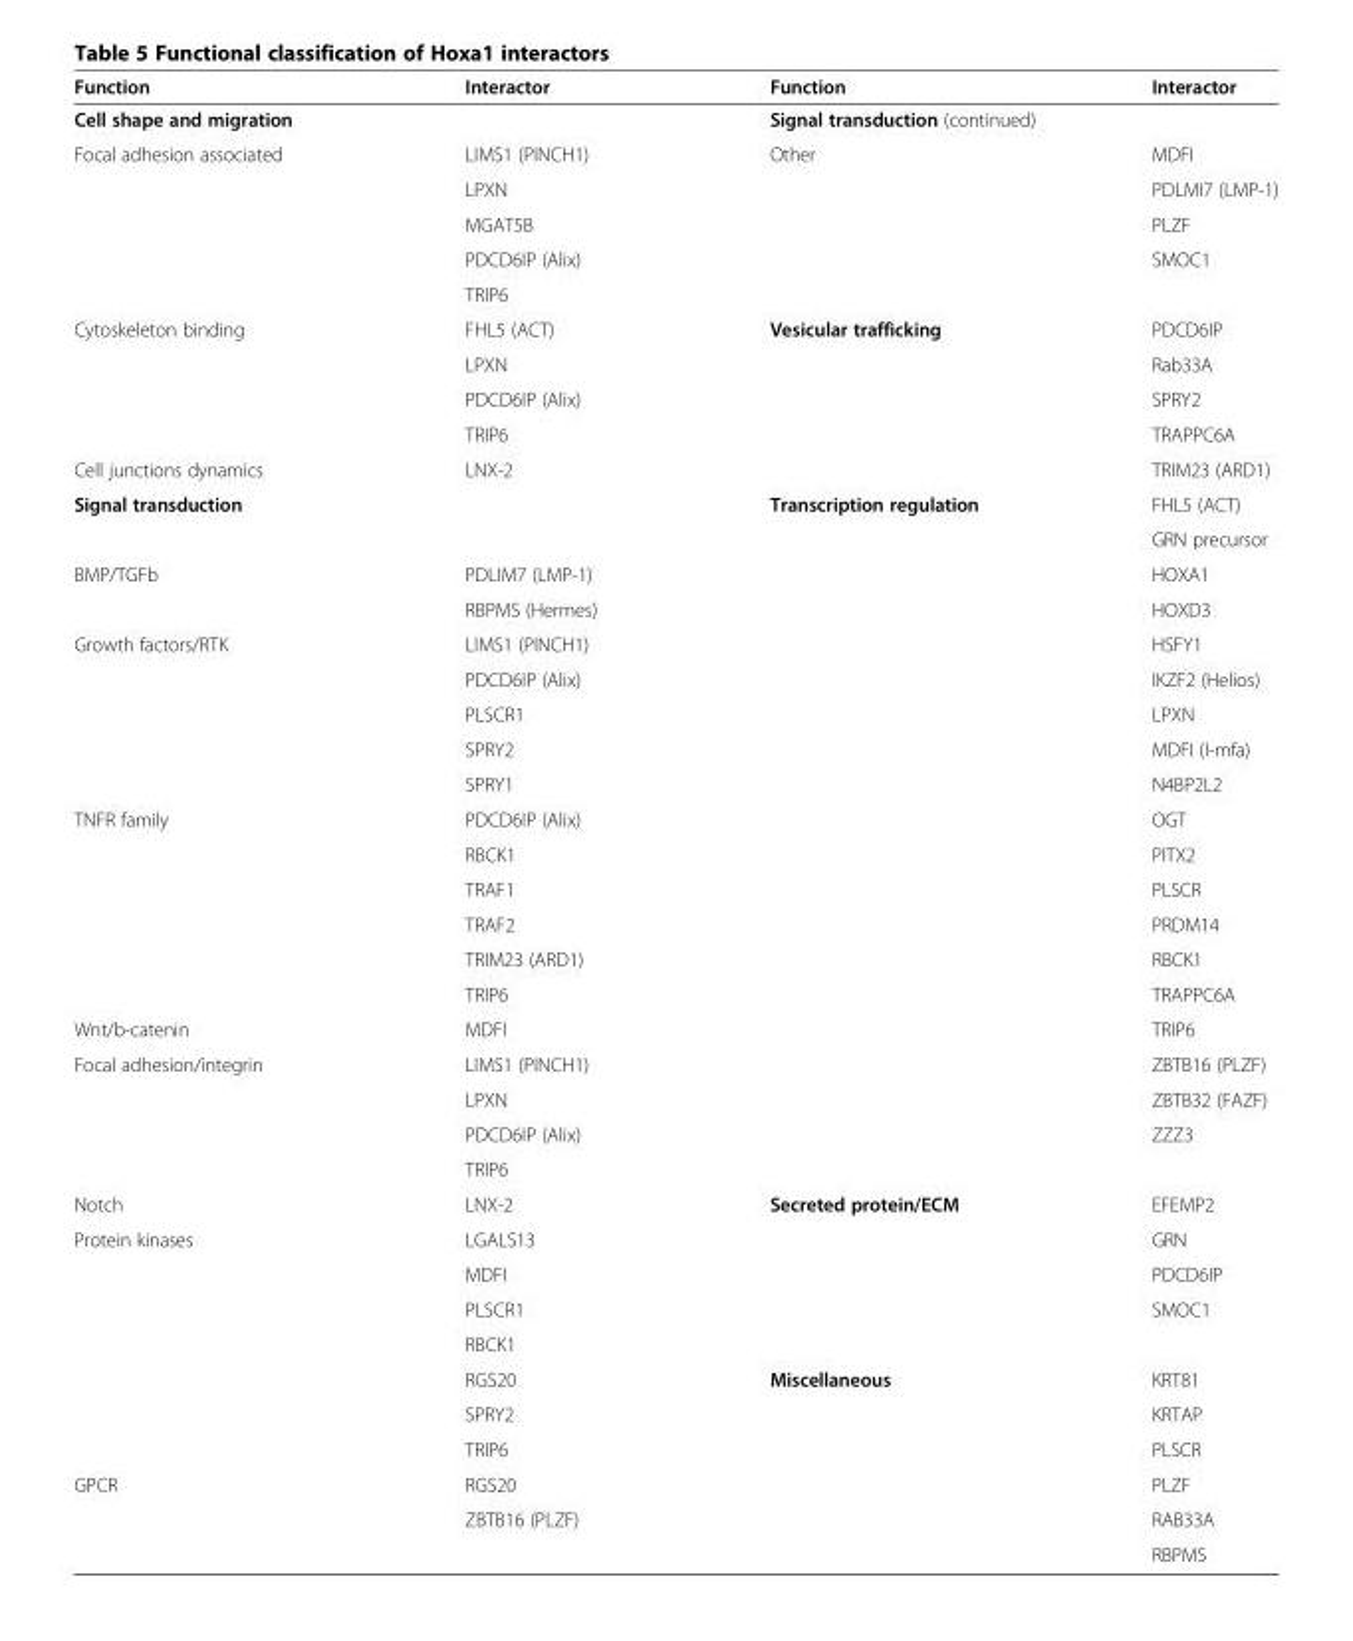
<table><thead><tr><td>Function</td><td>Interactor</td><td>Function</td><td>Interactor</td></tr></thead><tbody><tr><td>Cell shape and migration</td><td></td><td colspan="2">Signal transduction (continued)</td></tr><tr><td rowspan="5">Focal adhesion associated</td><td>LIMS1 (PINCH1)</td><td>Other</td><td>MDFI</td></tr><tr><td>LPXN</td><td></td><td>PDLMI7 (LMP-1)</td></tr><tr><td>MGAT5B</td><td></td><td>PLZF</td></tr><tr><td>PDCD6IP (Alix)</td><td></td><td>SMOC1</td></tr><tr><td>TRIP6</td><td></td><td></td></tr><tr><td rowspan="4">Cytoskeleton binding</td><td>FHL5 (ACT)</td><td>Vesicular trafficking</td><td>PDCD6IP</td></tr><tr><td>LPXN</td><td></td><td>Rab33A</td></tr><tr><td>PDCD6IP (Alix)</td><td></td><td>SPRY2</td></tr><tr><td>TRIP6</td><td></td><td>TRAPPC6A</td></tr><tr><td>Cell junctions dynamics</td><td>LNX-2</td><td></td><td>TRIM23 (ARD1)</td></tr><tr><td rowspan="2">Signal transduction</td><td></td><td>Transcription regulation</td><td>FHL5 (ACT)</td></tr><tr><td></td><td></td><td>GRN precursor</td></tr><tr><td rowspan="2">BMP/TGFb</td><td>PDLIM7 (LMP-1)</td><td></td><td>HOXA1</td></tr><tr><td>RBPMS (Hermes)</td><td></td><td>HOXD3</td></tr><tr><td rowspan="5">Growth factors/RTK</td><td>LIMS1 (PINCH1)</td><td></td><td>HSFY1</td></tr><tr><td>PDCD6IP (Alix)</td><td></td><td>IKZF2 (Helios)</td></tr><tr><td>PLSCR1</td><td></td><td>LPXN</td></tr><tr><td>SPRY2</td><td></td><td>MDFI (I-mfa)</td></tr><tr><td>SPRY1</td><td></td><td>N4BP2L2</td></tr><tr><td rowspan="6">TNFR family</td><td>PDCD6IP (Alix)</td><td></td><td>OGT</td></tr><tr><td>RBCK1</td><td></td><td>PITX2</td></tr><tr><td>TRAF1</td><td></td><td>PLSCR</td></tr><tr><td>TRAF2</td><td></td><td>PRDM14</td></tr><tr><td>TRIM23 (ARD1)</td><td></td><td>RBCK1</td></tr><tr><td>TRIP6</td><td></td><td>TRAPPC6A</td></tr><tr><td>Wnt/b-catenin</td><td>MDFI</td><td></td><td>TRIP6</td></tr><tr><td rowspan="4">Focal adhesion/integrin</td><td>LIMS1 (PINCH1)</td><td></td><td>ZBTB16 (PLZF)</td></tr><tr><td>LPXN</td><td></td><td>ZBTB32 (FAZF)</td></tr><tr><td>PDCD6IP (Alix)</td><td></td><td>ZZZ3</td></tr><tr><td>TRIP6</td><td></td><td></td></tr><tr><td>Notch</td><td>LNX-2</td><td>Secreted protein/ECM</td><td>EFEMP2</td></tr><tr><td rowspan="7">Protein kinases</td><td>LGALS13</td><td></td><td>GRN</td></tr><tr><td>MDFI</td><td></td><td>PDCD6IP</td></tr><tr><td>PLSCR1</td><td></td><td>SMOC1</td></tr><tr><td>RBCK1</td><td></td><td></td></tr><tr><td>RGS20</td><td>Miscellaneous</td><td>KRT81</td></tr><tr><td>SPRY2</td><td></td><td>KRTAP</td></tr><tr><td>TRIP6</td><td></td><td>PLSCR</td></tr><tr><td rowspan="3">GPCR</td><td>RGS20</td><td></td><td>PLZF</td></tr><tr><td>ZBTB16 (PLZF)</td><td></td><td>RAB33A</td></tr><tr><td></td><td></td><td>RBPMS</td></tr></tbody></table>